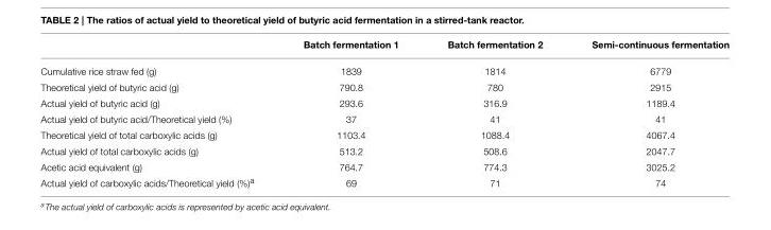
<table><thead><tr><td></td><td>Batch fermentation 1</td><td>Batch fermentation 2</td><td>Semi-continuous fermentation</td></tr></thead><tbody><tr><td>Cumulative rice straw fed (g)</td><td>1839</td><td>1814</td><td>6779</td></tr><tr><td>Theoretical yield of butyric acid (g)</td><td>790.8</td><td>780</td><td>2915</td></tr><tr><td>Actual yield of butyric acid (g)</td><td>293.6</td><td>316.9</td><td>1189.4</td></tr><tr><td>Actual yield of butyric acid/Theoretical yield (%)</td><td>37</td><td>41</td><td>41</td></tr><tr><td>Theoretical yield of total carboxylic acids (g)</td><td>1103.4</td><td>1088.4</td><td>4067.4</td></tr><tr><td>Actual yield of total carboxylic acids (g)</td><td>513.2</td><td>508.6</td><td>2047.7</td></tr><tr><td>Acetic acid equivalent (g)</td><td>764.7</td><td>774.3</td><td>3025.2</td></tr><tr><td>Actual yield of carboxylic acids/Theoretical yield (%)<sup>a</sup></td><td>69</td><td>71</td><td>74</td></tr></tbody></table>